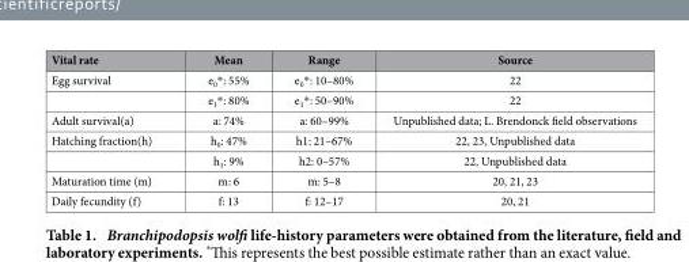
<table><thead><tr><td>Vital rate</td><td>Mean</td><td>Range</td><td>Source</td></tr></thead><tbody><tr><td rowspan="2">Egg survival</td><td>e<sub>0</sub>* : 55%</td><td>e<sub>0</sub>* : 10–80%</td><td>22</td></tr><tr><td>e<sub>1</sub>* : 80%</td><td>e<sub>1</sub>* : 50–90%</td><td>22</td></tr><tr><td>Adult survival(a)</td><td>a: 74%</td><td>a: 60–99%</td><td>Unpublished data; L. Brendonck field observations</td></tr><tr><td rowspan="2">Hatching fraction(h)</td><td>h<sub>0</sub>: 47%</td><td>h1: 21–67%</td><td>22, 23, Unpublished data</td></tr><tr><td>h<sub>1</sub>: 9%</td><td>h2: 0–57%</td><td>22, Unpublished data</td></tr><tr><td>Maturation time (m)</td><td>m: 6</td><td>m: 5–8</td><td>20, 21, 23</td></tr><tr><td>Daily fecundity (f)</td><td>f: 13</td><td>f: 12–17</td><td>20, 21</td></tr></tbody></table>